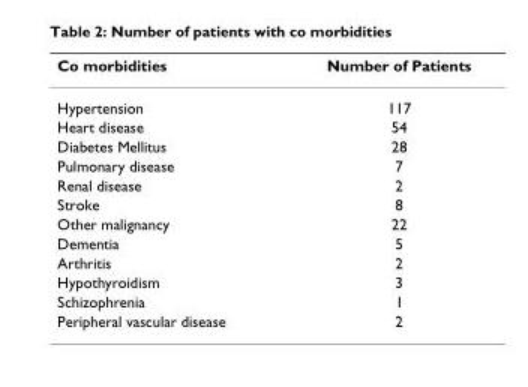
<table><thead><tr><td>Co morbidities</td><td>Number of Patients</td></tr></thead><tbody><tr><td>Hypertension</td><td>117</td></tr><tr><td>Heart disease</td><td>54</td></tr><tr><td>Diabetes Mellitus</td><td>28</td></tr><tr><td>Pulmonary disease</td><td>7</td></tr><tr><td>Renal disease</td><td>2</td></tr><tr><td>Stroke</td><td>8</td></tr><tr><td>Other malignancy</td><td>22</td></tr><tr><td>Dementia</td><td>5</td></tr><tr><td>Arthritis</td><td>2</td></tr><tr><td>Hypothyroidism</td><td>3</td></tr><tr><td>Schizophrenia</td><td>1</td></tr><tr><td>Peripheral vascular disease</td><td>2</td></tr></tbody></table>